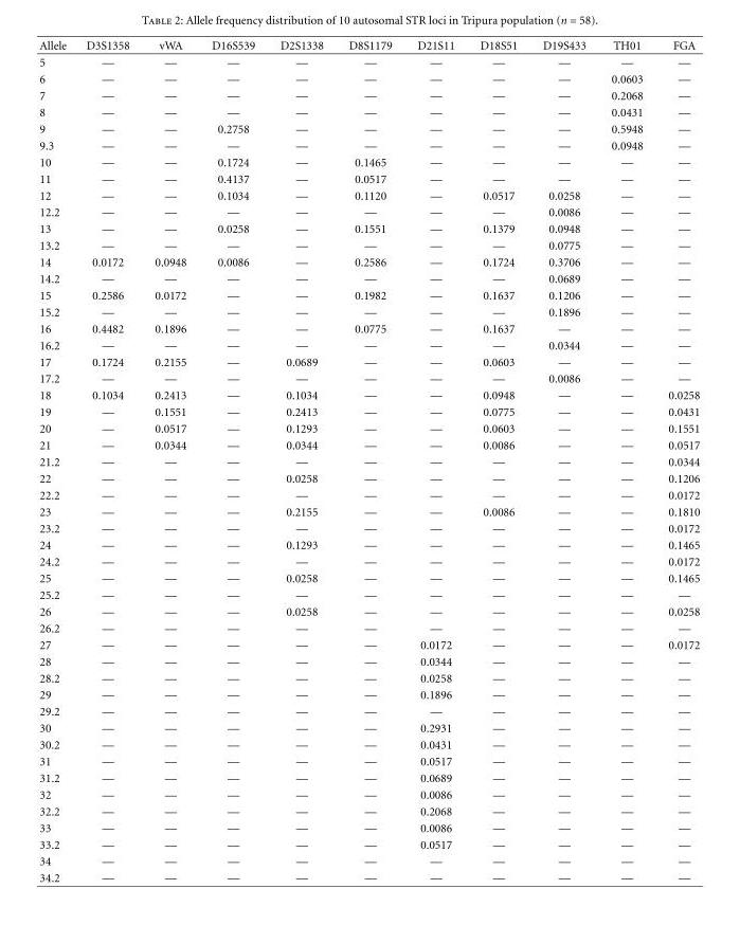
<table><thead><tr><td>Allele</td><td>D3S1358</td><td>vWA</td><td>D16S539</td><td>D2S1338</td><td>D8S1179</td><td>D21S11</td><td>D18S51</td><td>D19S433</td><td>TH01</td><td>FGA</td></tr></thead><tbody><tr><td>5</td><td>—</td><td>—</td><td>—</td><td>—</td><td>—</td><td>—</td><td>—</td><td>—</td><td>—</td><td>—</td></tr><tr><td>6</td><td>—</td><td>—</td><td>—</td><td>—</td><td>—</td><td>—</td><td>—</td><td>—</td><td>0.0603</td><td>—</td></tr><tr><td>7</td><td>—</td><td>—</td><td>—</td><td>—</td><td>—</td><td>—</td><td>—</td><td>—</td><td>0.2068</td><td>—</td></tr><tr><td>8</td><td>—</td><td>—</td><td>—</td><td>—</td><td>—</td><td>—</td><td>—</td><td>—</td><td>0.0431</td><td>—</td></tr><tr><td>9</td><td>—</td><td>—</td><td>0.2758</td><td>—</td><td>—</td><td>—</td><td>—</td><td>—</td><td>0.5948</td><td>—</td></tr><tr><td>9.3</td><td>—</td><td>—</td><td>—</td><td>—</td><td>—</td><td>—</td><td>—</td><td>—</td><td>0.0948</td><td>—</td></tr><tr><td>10</td><td>—</td><td>—</td><td>0.1724</td><td>—</td><td>0.1465</td><td>—</td><td>—</td><td>—</td><td>—</td><td>—</td></tr><tr><td>11</td><td>—</td><td>—</td><td>0.4137</td><td>—</td><td>0.0517</td><td>—</td><td>—</td><td>—</td><td>—</td><td>—</td></tr><tr><td>12</td><td>—</td><td>—</td><td>0.1034</td><td>—</td><td>0.1120</td><td>—</td><td>0.0517</td><td>0.0258</td><td>—</td><td>—</td></tr><tr><td>12.2</td><td>—</td><td>—</td><td>—</td><td>—</td><td>—</td><td>—</td><td>—</td><td>0.0086</td><td>—</td><td>—</td></tr><tr><td>13</td><td>—</td><td>—</td><td>0.0258</td><td>—</td><td>0.1551</td><td>—</td><td>0.1379</td><td>0.0948</td><td>—</td><td>—</td></tr><tr><td>13.2</td><td>—</td><td>—</td><td>—</td><td>—</td><td>—</td><td>—</td><td>—</td><td>0.0775</td><td>—</td><td>—</td></tr><tr><td>14</td><td>0.0172</td><td>0.0948</td><td>0.0086</td><td>—</td><td>0.2586</td><td>—</td><td>0.1724</td><td>0.3706</td><td>—</td><td>—</td></tr><tr><td>14.2</td><td>—</td><td>—</td><td>—</td><td>—</td><td>—</td><td>—</td><td>—</td><td>0.0689</td><td>—</td><td>—</td></tr><tr><td>15</td><td>0.2586</td><td>0.0172</td><td>—</td><td>—</td><td>0.1982</td><td>—</td><td>0.1637</td><td>0.1206</td><td>—</td><td>—</td></tr><tr><td>15.2</td><td>—</td><td>—</td><td>—</td><td>—</td><td>—</td><td>—</td><td>—</td><td>0.1896</td><td>—</td><td>—</td></tr><tr><td>16</td><td>0.4482</td><td>0.1896</td><td>—</td><td>—</td><td>0.0775</td><td>—</td><td>0.1637</td><td>—</td><td>—</td><td>—</td></tr><tr><td>16.2</td><td>—</td><td>—</td><td>—</td><td>—</td><td>—</td><td>—</td><td>—</td><td>0.0344</td><td>—</td><td>—</td></tr><tr><td>17</td><td>0.1724</td><td>0.2155</td><td>—</td><td>0.0689</td><td>—</td><td>—</td><td>0.0603</td><td>—</td><td>—</td><td>—</td></tr><tr><td>17.2</td><td>—</td><td>—</td><td>—</td><td>—</td><td>—</td><td>—</td><td>—</td><td>0.0086</td><td>—</td><td>—</td></tr><tr><td>18</td><td>0.1034</td><td>0.2413</td><td>—</td><td>0.1034</td><td>—</td><td>—</td><td>0.0948</td><td>—</td><td>—</td><td>0.0258</td></tr><tr><td>19</td><td>—</td><td>0.1551</td><td>—</td><td>0.2413</td><td>—</td><td>—</td><td>0.0775</td><td>—</td><td>—</td><td>0.0431</td></tr><tr><td>20</td><td>—</td><td>0.0517</td><td>—</td><td>0.1293</td><td>—</td><td>—</td><td>0.0603</td><td>—</td><td>—</td><td>0.1551</td></tr><tr><td>21</td><td>—</td><td>0.0344</td><td>—</td><td>0.0344</td><td>—</td><td>—</td><td>0.0086</td><td>—</td><td>—</td><td>0.0517</td></tr><tr><td>21.2</td><td>—</td><td>—</td><td>—</td><td>—</td><td>—</td><td>—</td><td>—</td><td>—</td><td>—</td><td>0.0344</td></tr><tr><td>22</td><td>—</td><td>—</td><td>—</td><td>0.0258</td><td>—</td><td>—</td><td>—</td><td>—</td><td>—</td><td>0.1206</td></tr><tr><td>22.2</td><td>—</td><td>—</td><td>—</td><td>—</td><td>—</td><td>—</td><td>—</td><td>—</td><td>—</td><td>0.0172</td></tr><tr><td>23</td><td>—</td><td>—</td><td>—</td><td>0.2155</td><td>—</td><td>—</td><td>0.0086</td><td>—</td><td>—</td><td>0.1810</td></tr><tr><td>23.2</td><td>—</td><td>—</td><td>—</td><td>—</td><td>—</td><td>—</td><td>—</td><td>—</td><td>—</td><td>0.0172</td></tr><tr><td>24</td><td>—</td><td>—</td><td>—</td><td>0.1293</td><td>—</td><td>—</td><td>—</td><td>—</td><td>—</td><td>0.1465</td></tr><tr><td>24.2</td><td>—</td><td>—</td><td>—</td><td>—</td><td>—</td><td>—</td><td>—</td><td>—</td><td>—</td><td>0.0172</td></tr><tr><td>25</td><td>—</td><td>—</td><td>—</td><td>0.0258</td><td>—</td><td>—</td><td>—</td><td>—</td><td>—</td><td>0.1465</td></tr><tr><td>25.2</td><td>—</td><td>—</td><td>—</td><td>—</td><td>—</td><td>—</td><td>—</td><td>—</td><td>—</td><td>—</td></tr><tr><td>26</td><td>—</td><td>—</td><td>—</td><td>0.0258</td><td>—</td><td>—</td><td>—</td><td>—</td><td>—</td><td>0.0258</td></tr><tr><td>26.2</td><td>—</td><td>—</td><td>—</td><td>—</td><td>—</td><td>—</td><td>—</td><td>—</td><td>—</td><td>—</td></tr><tr><td>27</td><td>—</td><td>—</td><td>—</td><td>—</td><td>—</td><td>0.0172</td><td>—</td><td>—</td><td>—</td><td>0.0172</td></tr><tr><td>28</td><td>—</td><td>—</td><td>—</td><td>—</td><td>—</td><td>0.0344</td><td>—</td><td>—</td><td>—</td><td>—</td></tr><tr><td>28.2</td><td>—</td><td>—</td><td>—</td><td>—</td><td>—</td><td>0.0258</td><td>—</td><td>—</td><td>—</td><td>—</td></tr><tr><td>29</td><td>—</td><td>—</td><td>—</td><td>—</td><td>—</td><td>0.1896</td><td>—</td><td>—</td><td>—</td><td>—</td></tr><tr><td>29.2</td><td>—</td><td>—</td><td>—</td><td>—</td><td>—</td><td>—</td><td>—</td><td>—</td><td>—</td><td>—</td></tr><tr><td>30</td><td>—</td><td>—</td><td>—</td><td>—</td><td>—</td><td>0.2931</td><td>—</td><td>—</td><td>—</td><td>—</td></tr><tr><td>30.2</td><td>—</td><td>—</td><td>—</td><td>—</td><td>—</td><td>0.0431</td><td>—</td><td>—</td><td>—</td><td>—</td></tr><tr><td>31</td><td>—</td><td>—</td><td>—</td><td>—</td><td>—</td><td>0.0517</td><td>—</td><td>—</td><td>—</td><td>—</td></tr><tr><td>31.2</td><td>—</td><td>—</td><td>—</td><td>—</td><td>—</td><td>0.0689</td><td>—</td><td>—</td><td>—</td><td>—</td></tr><tr><td>32</td><td>—</td><td>—</td><td>—</td><td>—</td><td>—</td><td>0.0086</td><td>—</td><td>—</td><td>—</td><td>—</td></tr><tr><td>32.2</td><td>—</td><td>—</td><td>—</td><td>—</td><td>—</td><td>0.2068</td><td>—</td><td>—</td><td>—</td><td>—</td></tr><tr><td>33</td><td>—</td><td>—</td><td>—</td><td>—</td><td>—</td><td>0.0086</td><td>—</td><td>—</td><td>—</td><td>—</td></tr><tr><td>33.2</td><td>—</td><td>—</td><td>—</td><td>—</td><td>—</td><td>0.0517</td><td>—</td><td>—</td><td>—</td><td>—</td></tr><tr><td>34</td><td>—</td><td>—</td><td>—</td><td>—</td><td>—</td><td>—</td><td>—</td><td>—</td><td>—</td><td>—</td></tr><tr><td>34.2</td><td>—</td><td>—</td><td>—</td><td>—</td><td>—</td><td>—</td><td>—</td><td>—</td><td>—</td><td>—</td></tr></tbody></table>